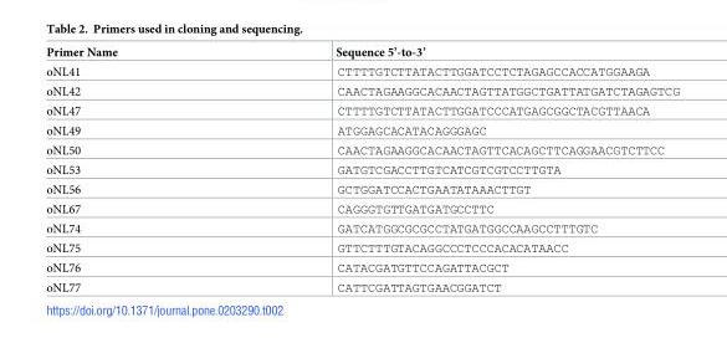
<table><thead><tr><td>Primer Name</td><td>Sequence 5’-to-3’</td></tr></thead><tbody><tr><td>oNL41</td><td>CTTTTGTCTTATACTTGGATCCTCTAGAGCCACCATGGAAGA</td></tr><tr><td>oNL42</td><td>CAACTAGAAGGCACAACTAGTTATGGCTGATTATGATCTAGAGTCG</td></tr><tr><td>oNL47</td><td>CTTTTGTCTTATACTTGGATCCCATGAGCGGCTACGTTAACA</td></tr><tr><td>oNL49</td><td>ATGGAGCACATACAGGGAGC</td></tr><tr><td>oNL50</td><td>CAACTAGAAGGCACAACTAGTTCACAGCTTCAGGAACGTCTTCC</td></tr><tr><td>oNL53</td><td>GATGTCGACCTTGTCATCGTCGTCCTTGTA</td></tr><tr><td>oNL56</td><td>GCTGGATCCACTGAATATAAACTTGT</td></tr><tr><td>oNL67</td><td>CAGGGTGTTGATGATGCCTTC</td></tr><tr><td>oNL74</td><td>GATCATGGCGCGCCTATGATGGCCAAGCCTTTGTC</td></tr><tr><td>oNL75</td><td>GTTCTTTGTACAGGCCCTCCCACACATAACC</td></tr><tr><td>oNL76</td><td>CATACGATGTTCCAGATTACGCT</td></tr><tr><td>oNL77</td><td>CATTCGATTAGTGAACGGATCT</td></tr></tbody></table>